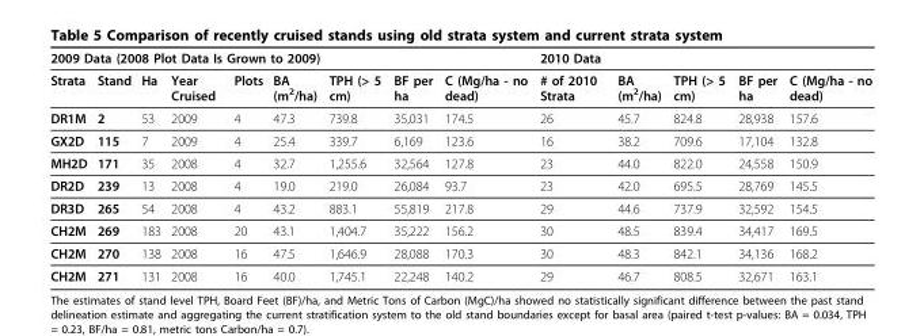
<table><thead><tr><td colspan="9">2009 Data (2008 Plot Data Is Grown to 2009)</td><td colspan="5">2010 Data</td></tr><tr><td>Strata</td><td>Stand</td><td>Ha</td><td>Year Cruised</td><td>Plots</td><td>BA (m<sup>2</sup>/ha)</td><td>TPH (&gt; 5 cm)</td><td>BF per ha</td><td>C (Mg/ha - no dead)</td><td># of 2010 Strata</td><td>BA (m<sup>2</sup>/ha)</td><td>TPH (&gt; 5 cm)</td><td>BF per ha</td><td>C (Mg/ha - no dead)</td></tr></thead><tbody><tr><td>DR1M</td><td>2</td><td>53</td><td>2009</td><td>4</td><td>47.3</td><td>739.8</td><td>35,031</td><td>174.5</td><td>26</td><td>45.7</td><td>824.8</td><td>28,938</td><td>157.6</td></tr><tr><td>GX2D</td><td>115</td><td>7</td><td>2009</td><td>4</td><td>25.4</td><td>339.7</td><td>6,169</td><td>123.6</td><td>16</td><td>38.2</td><td>709.6</td><td>17,104</td><td>132.8</td></tr><tr><td>MH2D</td><td>171</td><td>35</td><td>2008</td><td>4</td><td>32.7</td><td>1,255.6</td><td>32,564</td><td>127.8</td><td>23</td><td>44.0</td><td>822.0</td><td>24,558</td><td>150.9</td></tr><tr><td>DR2D</td><td>239</td><td>13</td><td>2008</td><td>4</td><td>19.0</td><td>219.0</td><td>26,084</td><td>93.7</td><td>23</td><td>42.0</td><td>695.5</td><td>28,769</td><td>145.5</td></tr><tr><td>DR3D</td><td>265</td><td>54</td><td>2008</td><td>4</td><td>43.2</td><td>883.1</td><td>55,819</td><td>217.8</td><td>29</td><td>44.6</td><td>737.9</td><td>32,592</td><td>154.5</td></tr><tr><td>CH2M</td><td>269</td><td>183</td><td>2008</td><td>20</td><td>43.1</td><td>1,404.7</td><td>35,222</td><td>156.2</td><td>30</td><td>48.5</td><td>839.4</td><td>34,417</td><td>169.5</td></tr><tr><td>CH2M</td><td>270</td><td>138</td><td>2008</td><td>16</td><td>47.5</td><td>1,646.9</td><td>28,088</td><td>170.3</td><td>30</td><td>48.3</td><td>842.1</td><td>34,136</td><td>168.2</td></tr><tr><td>CH2M</td><td>271</td><td>131</td><td>2008</td><td>16</td><td>40.0</td><td>1,745.1</td><td>22,248</td><td>140.2</td><td>29</td><td>46.7</td><td>808.5</td><td>32,671</td><td>163.1</td></tr></tbody></table>